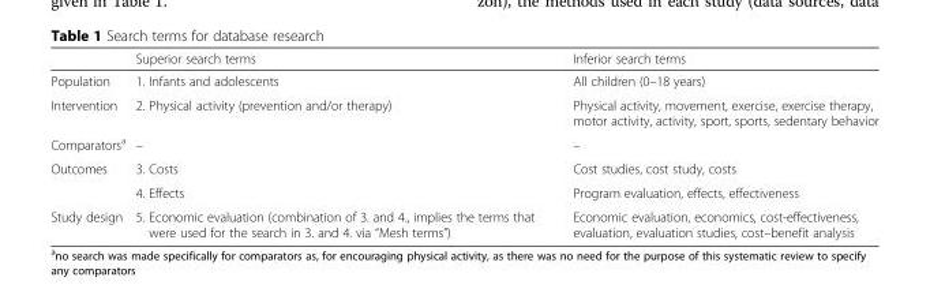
<table><thead><tr><td></td><td>Superior search terms</td><td>Inferior search terms</td></tr></thead><tbody><tr><td>Population</td><td>1. Infants and adolescents</td><td>All children (0–18 years)</td></tr><tr><td>Intervention</td><td>2. Physical activity (prevention and/or therapy)</td><td>Physical activity, movement, exercise, exercise therapy, motor activity, activity, sport, sports, sedentary behavior</td></tr><tr><td>Comparators<sup>a</sup></td><td>–</td><td>–</td></tr><tr><td rowspan="2">Outcomes</td><td>3. Costs</td><td>Cost studies, cost study, costs</td></tr><tr><td>4. Effects</td><td>Program evaluation, effects, effectiveness</td></tr><tr><td>Study design</td><td>5. Economic evaluation (combination of 3. and 4., implies the terms that were used for the search in 3. and 4. via “Mesh terms”)</td><td>Economic evaluation, economics, cost-effectiveness, evaluation, evaluation studies, cost–benefit analysis</td></tr></tbody></table>